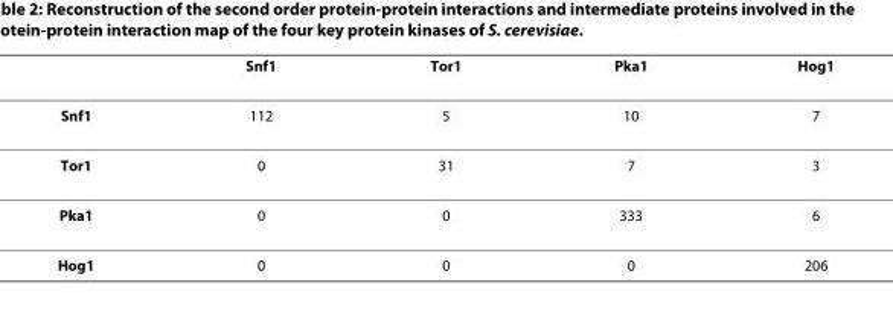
<table><thead><tr><td></td><td>Snf1</td><td>Tor1</td><td>Pka1</td><td>Hog1</td></tr></thead><tbody><tr><td>Snf1</td><td>112</td><td>5</td><td>10</td><td>7</td></tr><tr><td>Tor1</td><td>0</td><td>31</td><td>7</td><td>3</td></tr><tr><td>Pka1</td><td>0</td><td>0</td><td>333</td><td>6</td></tr><tr><td>Hog1</td><td>0</td><td>0</td><td>0</td><td>206</td></tr></tbody></table>